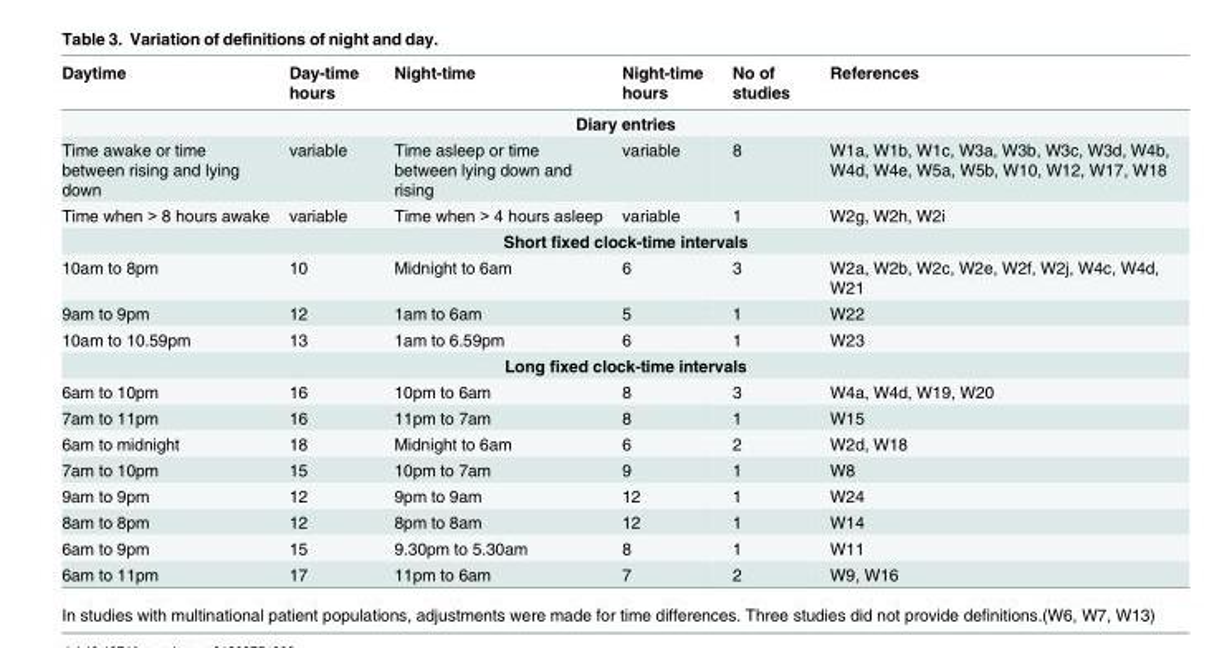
<table><thead><tr><td>Daytime</td><td>Day-time hours</td><td>Night-time</td><td>Night-time hours</td><td>No of studies</td><td>References</td></tr></thead><tbody><tr><td colspan="6">Diary entries</td></tr><tr><td>Time awake or time between rising and lying down</td><td>variable</td><td>Time asleep or time between lying down and rising</td><td>variable</td><td>8</td><td>W1a, W1b, W1c, W3a, W3b, W3c, W3d, W4b, W4d, W4e, W5a, W5b, W10, W12, W17, W18</td></tr><tr><td>Time when &gt; 8 hours awake</td><td>variable</td><td>Time when &gt; 4 hours asleep</td><td>variable</td><td>1</td><td>W2g, W2h, W2i</td></tr><tr><td colspan="6">Short fixed clock-time intervals</td></tr><tr><td>10am to 8pm</td><td>10</td><td>Midnight to 6am</td><td>6</td><td>3</td><td>W2a, W2b, W2c, W2e, W2f, W2j, W4c, W4d, W21</td></tr><tr><td>9am to 9pm</td><td>12</td><td>1am to 6am</td><td>5</td><td>1</td><td>W22</td></tr><tr><td>10am to 10.59pm</td><td>13</td><td>1am to 6.59pm</td><td>6</td><td>1</td><td>W23</td></tr><tr><td colspan="6">Long fixed clock-time intervals</td></tr><tr><td>6am to 10pm</td><td>16</td><td>10pm to 6am</td><td>8</td><td>3</td><td>W4a, W4d, W19, W20</td></tr><tr><td>7am to 11pm</td><td>16</td><td>11pm to 7am</td><td>8</td><td>1</td><td>W15</td></tr><tr><td>6am to midnight</td><td>18</td><td>Midnight to 6am</td><td>6</td><td>2</td><td>W2d, W18</td></tr><tr><td>7am to 10pm</td><td>15</td><td>10pm to 7am</td><td>9</td><td>1</td><td>W8</td></tr><tr><td>9am to 9pm</td><td>12</td><td>9pm to 9am</td><td>12</td><td>1</td><td>W24</td></tr><tr><td>8am to 8pm</td><td>12</td><td>8pm to 8am</td><td>12</td><td>1</td><td>W14</td></tr><tr><td>6am to 9pm</td><td>15</td><td>9.30pm to 5.30am</td><td>8</td><td>1</td><td>W11</td></tr><tr><td>6am to 11pm</td><td>17</td><td>11pm to 6am</td><td>7</td><td>2</td><td>W9, W16</td></tr></tbody></table>